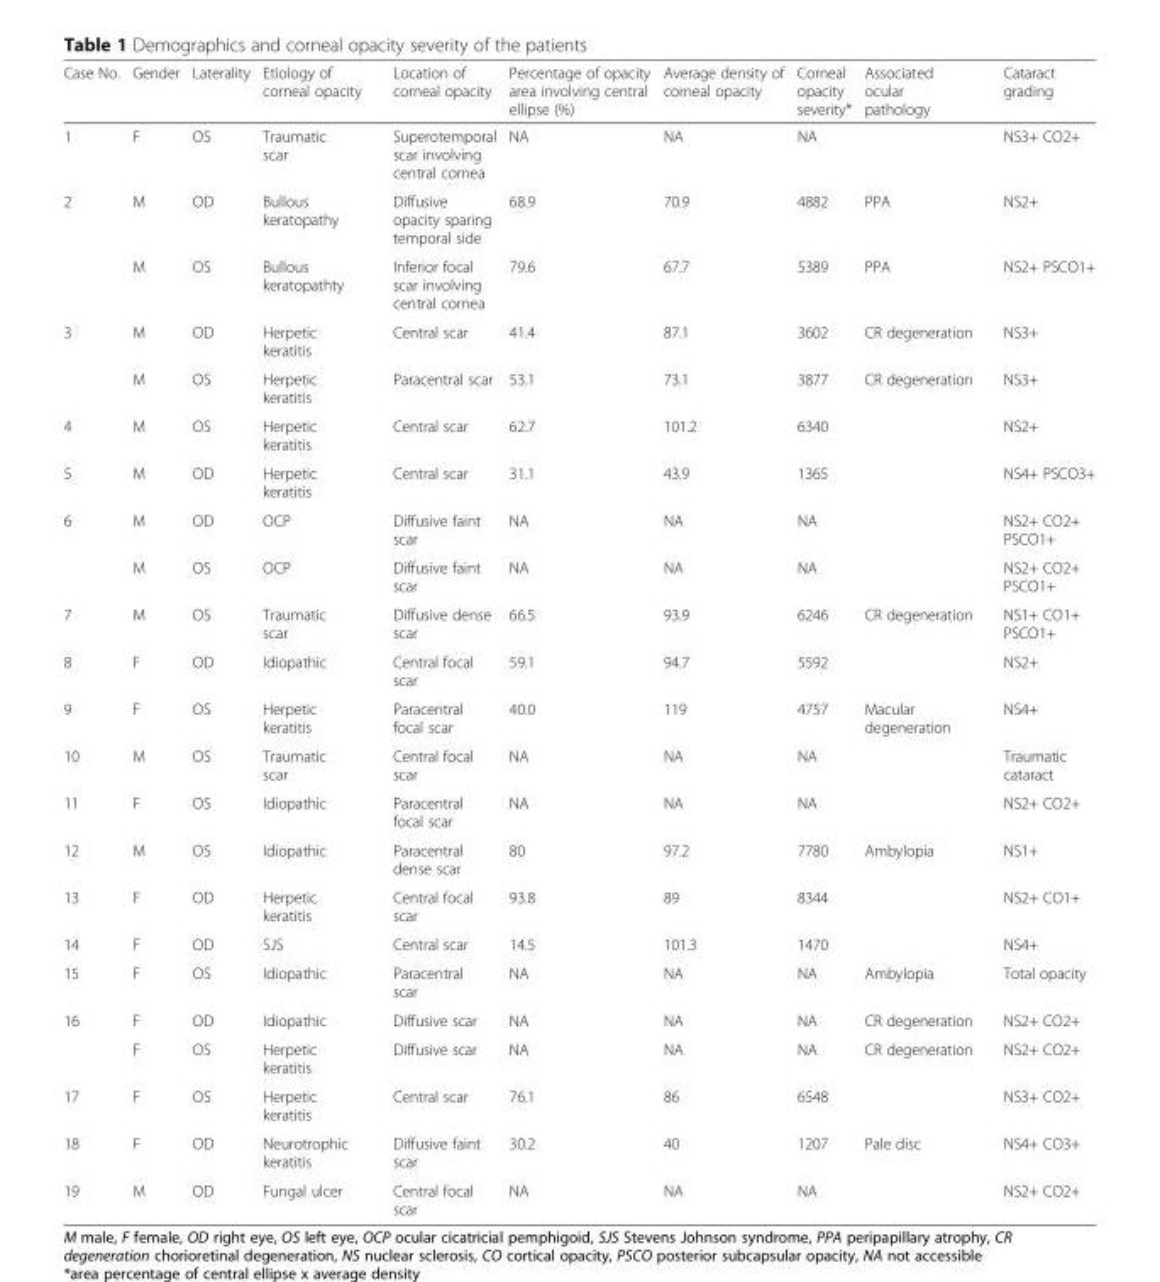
<table><thead><tr><td>Case No.</td><td>Gender</td><td>Laterality</td><td>Etiology of corneal opacity</td><td>Location of corneal opacity</td><td>Percentage of opacity area involving central ellipse (%)</td><td>Average density of corneal opacity</td><td>Corneal opacity severity*</td><td>Associated ocular pathology</td><td>Cataract grading</td></tr></thead><tbody><tr><td>1</td><td>F</td><td>OS</td><td>Traumatic scar</td><td>Superotemporal scar involving central cornea</td><td>NA</td><td>NA</td><td>NA</td><td></td><td>NS3+ CO2+</td></tr><tr><td rowspan="2">2</td><td>M</td><td>OD</td><td>Bullous keratopathy</td><td>Diffusive opacity sparing temporal side</td><td>68.9</td><td>70.9</td><td>4882</td><td>PPA</td><td>NS2+</td></tr><tr><td>M</td><td>OS</td><td>Bullous keratopathty</td><td>Inferior focal scar involving central cornea</td><td>79.6</td><td>67.7</td><td>5389</td><td>PPA</td><td>NS2+ PSCO1+</td></tr><tr><td rowspan="2">3</td><td>M</td><td>OD</td><td>Herpetic keratitis</td><td>Central scar</td><td>41.4</td><td>87.1</td><td>3602</td><td>CR degeneration</td><td>NS3+</td></tr><tr><td>M</td><td>OS</td><td>Herpetic keratitis</td><td>Paracentral scar</td><td>53.1</td><td>73.1</td><td>3877</td><td>CR degeneration</td><td>NS3+</td></tr><tr><td>4</td><td>M</td><td>OS</td><td>Herpetic keratitis</td><td>Central scar</td><td>62.7</td><td>101.2</td><td>6340</td><td></td><td>NS2+</td></tr><tr><td>5</td><td>M</td><td>OD</td><td>Herpetic keratitis</td><td>Central scar</td><td>31.1</td><td>43.9</td><td>1365</td><td></td><td>NS4+ PSCO3+</td></tr><tr><td rowspan="2">6</td><td>M</td><td>OD</td><td>OCP</td><td>Diffusive faint scar</td><td>NA</td><td>NA</td><td>NA</td><td></td><td>NS2+ CO2+ PSCO1+</td></tr><tr><td>M</td><td>OS</td><td>OCP</td><td>Diffusive faint scar</td><td>NA</td><td>NA</td><td>NA</td><td></td><td>NS2+ CO2+ PSCO1+</td></tr><tr><td>7</td><td>M</td><td>OS</td><td>Traumatic scar</td><td>Diffusive dense scar</td><td>66.5</td><td>93.9</td><td>6246</td><td>CR degeneration</td><td>NS1+ CO1+ PSCO1+</td></tr><tr><td>8</td><td>F</td><td>OD</td><td>Idiopathic</td><td>Central focal scar</td><td>59.1</td><td>94.7</td><td>5592</td><td></td><td>NS2+</td></tr><tr><td>9</td><td>F</td><td>OS</td><td>Herpetic keratitis</td><td>Paracentral focal scar</td><td>40.0</td><td>119</td><td>4757</td><td>Macular degeneration</td><td>NS4+</td></tr><tr><td>10</td><td>M</td><td>OS</td><td>Traumatic scar</td><td>Central focal scar</td><td>NA</td><td>NA</td><td>NA</td><td></td><td>Traumatic cataract</td></tr><tr><td>11</td><td>F</td><td>OS</td><td>Idiopathic</td><td>Paracentral focal scar</td><td>NA</td><td>NA</td><td>NA</td><td></td><td>NS2+ CO2+</td></tr><tr><td>12</td><td>M</td><td>OS</td><td>Idiopathic</td><td>Paracentral dense scar</td><td>80</td><td>97.2</td><td>7780</td><td>Ambylopia</td><td>NS1+</td></tr><tr><td>13</td><td>F</td><td>OD</td><td>Herpetic keratitis</td><td>Central focal scar</td><td>93.8</td><td>89</td><td>8344</td><td></td><td>NS2+ CO1+</td></tr><tr><td>14</td><td>F</td><td>OD</td><td>SJS</td><td>Central scar</td><td>14.5</td><td>101.3</td><td>1470</td><td></td><td>NS4+</td></tr><tr><td>15</td><td>F</td><td>OS</td><td>Idiopathic</td><td>Paracentral scar</td><td>NA</td><td>NA</td><td>NA</td><td>Ambylopia</td><td>Total opacity</td></tr><tr><td rowspan="2">16</td><td>F</td><td>OD</td><td>Idiopathic</td><td>Diffusive scar</td><td>NA</td><td>NA</td><td>NA</td><td>CR degeneration</td><td>NS2+ CO2+</td></tr><tr><td>F</td><td>OS</td><td>Herpetic keratitis</td><td>Diffusive scar</td><td>NA</td><td>NA</td><td>NA</td><td>CR degeneration</td><td>NS2+ CO2+</td></tr><tr><td>17</td><td>F</td><td>OS</td><td>Herpetic keratitis</td><td>Central scar</td><td>76.1</td><td>86</td><td>6548</td><td></td><td>NS3+ CO2+</td></tr><tr><td>18</td><td>F</td><td>OD</td><td>Neurotrophic keratitis</td><td>Diffusive faint scar</td><td>30.2</td><td>40</td><td>1207</td><td>Pale disc</td><td>NS4+ CO3+</td></tr><tr><td>19</td><td>M</td><td>OD</td><td>Fungal ulcer</td><td>Central focal scar</td><td>NA</td><td>NA</td><td>NA</td><td></td><td>NS2+ CO2+</td></tr></tbody></table>